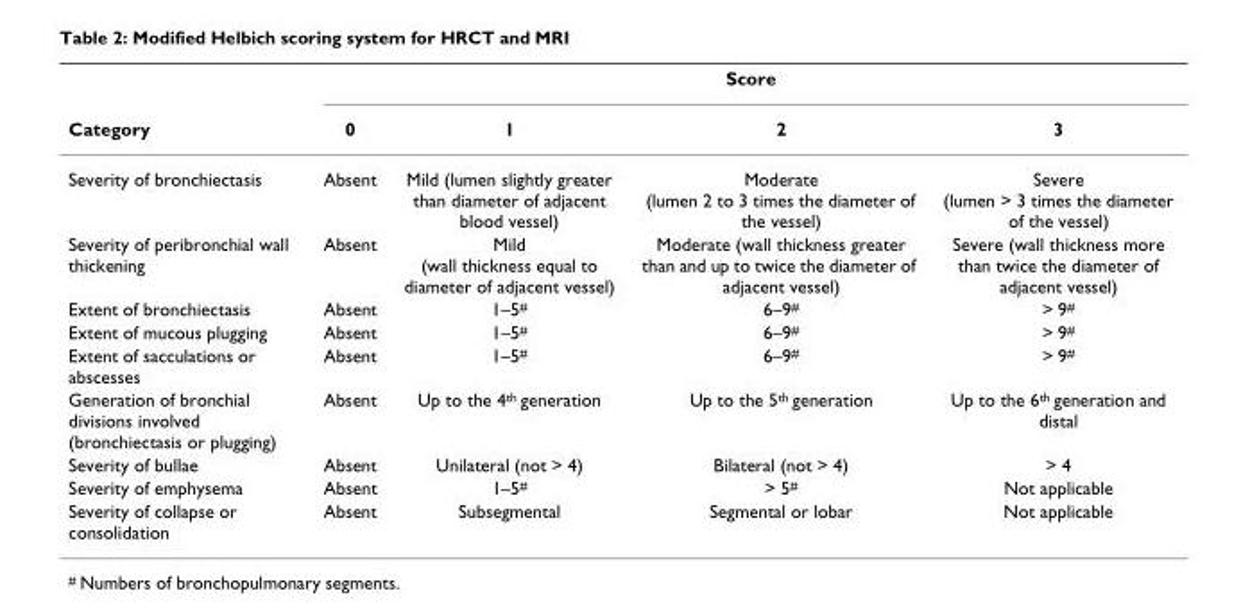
<table><thead><tr><td rowspan="2">Category</td><td colspan="4">Score</td></tr><tr><td>0</td><td>1</td><td>2</td><td>3</td></tr></thead><tbody><tr><td>Severity of bronchiectasis</td><td>Absent</td><td>Mild (lumen slightly greater than diameter of adjacent blood vessel)</td><td>Moderate (lumen 2 to 3 times the diameter of the vessel)</td><td>Severe (lumen &gt; 3 times the diameter of the vessel)</td></tr><tr><td>Severity of peribronchial wall thickening</td><td>Absent</td><td>Mild (wall thickness equal to diameter of adjacent vessel)</td><td>Moderate (wall thickness greater than and up to twice the diameter of adjacent vessel)</td><td>Severe (wall thickness more than twice the diameter of adjacent vessel)</td></tr><tr><td>Extent of bronchiectasis</td><td>Absent</td><td>1–5<sup>#</sup></td><td>6–9<sup>#</sup></td><td>&gt; 9<sup>#</sup></td></tr><tr><td>Extent of mucous plugging</td><td>Absent</td><td>1–5<sup>#</sup></td><td>6–9<sup>#</sup></td><td>&gt; 9<sup>#</sup></td></tr><tr><td>Extent of sacculations or abscesses</td><td>Absent</td><td>1–5<sup>#</sup></td><td>6–9<sup>#</sup></td><td>&gt; 9<sup>#</sup></td></tr><tr><td>Generation of bronchial divisions involved (bronchiectasis or plugging)</td><td>Absent</td><td>Up to the 4<sup>th</sup> generation</td><td>Up to the 5<sup>th</sup> generation</td><td>Up to the 6<sup>th</sup> generation and distal</td></tr><tr><td>Severity of bullae</td><td>Absent</td><td>Unilateral (not &gt; 4)</td><td>Bilateral (not &gt; 4)</td><td>&gt; 4</td></tr><tr><td>Severity of emphysema</td><td>Absent</td><td>1–5<sup>#</sup></td><td>&gt; 5<sup>#</sup></td><td>Not applicable</td></tr><tr><td>Severity of collapse or consolidation</td><td>Absent</td><td>Subsegmental</td><td>Segmental or lobar</td><td>Not applicable</td></tr></tbody></table>